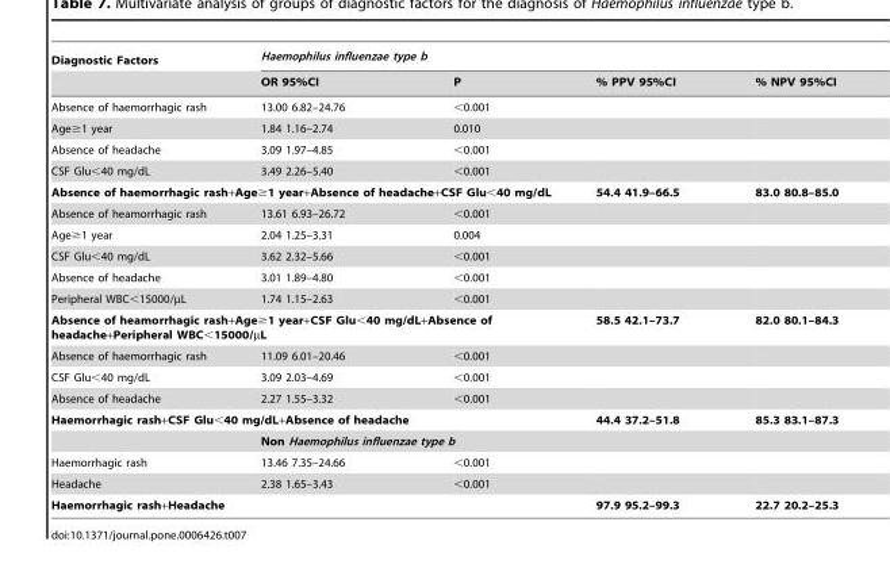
<table><thead><tr><td rowspan="2">Diagnostic Factors</td><td colspan="4">Haemophilus influenzae type b</td></tr><tr><td>OR 95%CI</td><td>P</td><td>% PPV 95%CI</td><td>% NPV 95%CI</td></tr></thead><tbody><tr><td>Absence of haemorrhagic rash</td><td>13.00 6.82–24.76</td><td>&lt;0.001</td><td></td><td></td></tr><tr><td>Age≥1 year</td><td>1.84 1.16–2.74</td><td>0.010</td><td></td><td></td></tr><tr><td>Absence of headache</td><td>3.09 1.97–4.85</td><td>&lt;0.001</td><td></td><td></td></tr><tr><td>CSF Glu&lt;40 mg/dL</td><td>3.49 2.26–5.40</td><td>&lt;0.001</td><td></td><td></td></tr><tr><td colspan="3">Absence of haemorrhagic rash+Age≥1 year+Absence of headache+CSF Glu&lt;40 mg/dL</td><td>54.4 41.9–66.5</td><td>83.0 80.8–85.0</td></tr><tr><td>Absence of heamorrhagic rash</td><td>13.61 6.93–26.72</td><td>&lt;0.001</td><td></td><td></td></tr><tr><td>Age≥1 year</td><td>2.04 1.25–3.31</td><td>0.004</td><td></td><td></td></tr><tr><td>CSF Glu&lt;40 mg/dL</td><td>3.62 2.32–5.66</td><td>&lt;0.001</td><td></td><td></td></tr><tr><td>Absence of headache</td><td>3.01 1.89–4.80</td><td>&lt;0.001</td><td></td><td></td></tr><tr><td>Peripheral WBC&lt;15000/µL</td><td>1.74 1.15–2.63</td><td>&lt;0.001</td><td></td><td></td></tr><tr><td colspan="3">Absence of heamorrhagic rash+Age≥1 year+CSF Glu&lt;40 mg/dL+Absence of headache+Peripheral WBC&lt;15000/µL</td><td>58.5 42.1–73.7</td><td>82.0 80.1–84.3</td></tr><tr><td>Absence of haemorrhagic rash</td><td>11.09 6.01–20.46</td><td>&lt;0.001</td><td></td><td></td></tr><tr><td>CSF Glu&lt;40 mg/dL</td><td>3.09 2.03–4.69</td><td>&lt;0.001</td><td></td><td></td></tr><tr><td>Absence of headache</td><td>2.27 1.55–3.32</td><td>&lt;0.001</td><td></td><td></td></tr><tr><td colspan="3">Haemorrhagic rash+CSF Glu&lt;40 mg/dL+Absence of headache</td><td>44.4 37.2–51.8</td><td>85.3 83.1–87.3</td></tr><tr><td></td><td colspan="4">Non Haemophilus influenzae type b</td></tr><tr><td>Haemorrhagic rash</td><td>13.46 7.35–24.66</td><td>&lt;0.001</td><td></td><td></td></tr><tr><td>Headache</td><td>2.38 1.65–3.43</td><td>&lt;0.001</td><td></td><td></td></tr><tr><td colspan="3">Haemorrhagic rash+Headache</td><td>97.9 95.2–99.3</td><td>22.7 20.2–25.3</td></tr></tbody></table>